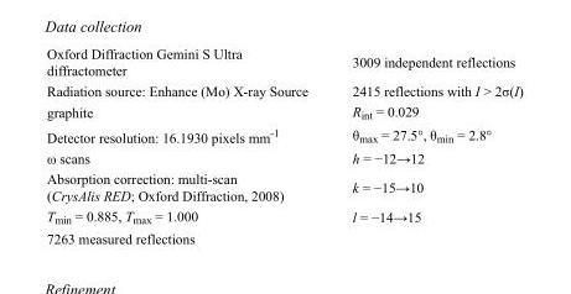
<table><tbody><tr><td>Oxford Diffraction Gemini S Ultra diffractometer</td><td>3009 independent reflections</td></tr><tr><td>Radiation source: Enhance (Mo) X-ray Source</td><td>2415 reflections with I &gt; 2σ(I)</td></tr><tr><td>graphite</td><td>R<sub>int</sub> = 0.029</td></tr><tr><td>Detector resolution: 16.1930 pixels mm<sup>-1</sup></td><td>θ<sub>max</sub> = 27.5°, θ<sub>min</sub> = 2.8°</td></tr><tr><td>ω scans</td><td>h = −12→12</td></tr><tr><td>Absorption correction: multi-scan (CrysAlis RED; Oxford Diffraction, 2008)</td><td>k = −15→10</td></tr><tr><td>T<sub>min</sub> = 0.885, T<sub>max</sub> = 1.000</td><td>l = −14→15</td></tr><tr><td>7263 measured reflections</td><td></td></tr></tbody></table>